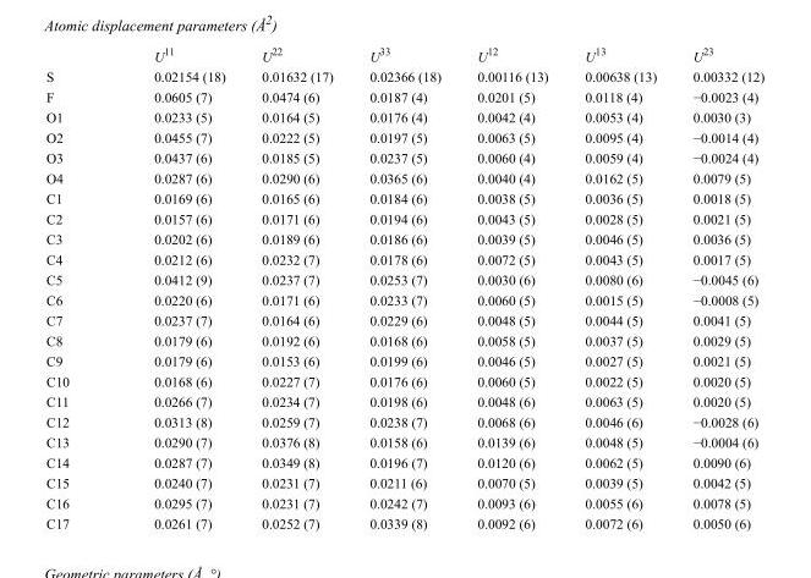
<table><thead><tr><td></td><td>U<sup>11</sup></td><td>U<sup>22</sup></td><td>U<sup>33</sup></td><td>U<sup>12</sup></td><td>U<sup>13</sup></td><td>U<sup>23</sup></td></tr></thead><tbody><tr><td>S</td><td>0.02154 (18)</td><td>0.01632 (17)</td><td>0.02366 (18)</td><td>0.00116 (13)</td><td>0.00638 (13)</td><td>0.00332 (12)</td></tr><tr><td>F</td><td>0.0605 (7)</td><td>0.0474 (6)</td><td>0.0187 (4)</td><td>0.0201 (5)</td><td>0.0118 (4)</td><td>−0.0023 (4)</td></tr><tr><td>O1</td><td>0.0233 (5)</td><td>0.0164 (5)</td><td>0.0176 (4)</td><td>0.0042 (4)</td><td>0.0053 (4)</td><td>0.0030 (3)</td></tr><tr><td>O2</td><td>0.0455 (7)</td><td>0.0222 (5)</td><td>0.0197 (5)</td><td>0.0063 (5)</td><td>0.0095 (4)</td><td>−0.0014 (4)</td></tr><tr><td>O3</td><td>0.0437 (6)</td><td>0.0185 (5)</td><td>0.0237 (5)</td><td>0.0060 (4)</td><td>0.0059 (4)</td><td>−0.0024 (4)</td></tr><tr><td>O4</td><td>0.0287 (6)</td><td>0.0290 (6)</td><td>0.0365 (6)</td><td>0.0040 (4)</td><td>0.0162 (5)</td><td>0.0079 (5)</td></tr><tr><td>C1</td><td>0.0169 (6)</td><td>0.0165 (6)</td><td>0.0184 (6)</td><td>0.0038 (5)</td><td>0.0036 (5)</td><td>0.0018 (5)</td></tr><tr><td>C2</td><td>0.0157 (6)</td><td>0.0171 (6)</td><td>0.0194 (6)</td><td>0.0043 (5)</td><td>0.0028 (5)</td><td>0.0021 (5)</td></tr><tr><td>C3</td><td>0.0202 (6)</td><td>0.0189 (6)</td><td>0.0186 (6)</td><td>0.0039 (5)</td><td>0.0046 (5)</td><td>0.0036 (5)</td></tr><tr><td>C4</td><td>0.0212 (6)</td><td>0.0232 (7)</td><td>0.0178 (6)</td><td>0.0072 (5)</td><td>0.0043 (5)</td><td>0.0017 (5)</td></tr><tr><td>C5</td><td>0.0412 (9)</td><td>0.0237 (7)</td><td>0.0253 (7)</td><td>0.0030 (6)</td><td>0.0080 (6)</td><td>−0.0045 (6)</td></tr><tr><td>C6</td><td>0.0220 (6)</td><td>0.0171 (6)</td><td>0.0233 (7)</td><td>0.0060 (5)</td><td>0.0015 (5)</td><td>−0.0008 (5)</td></tr><tr><td>C7</td><td>0.0237 (7)</td><td>0.0164 (6)</td><td>0.0229 (6)</td><td>0.0048 (5)</td><td>0.0044 (5)</td><td>0.0041 (5)</td></tr><tr><td>C8</td><td>0.0179 (6)</td><td>0.0192 (6)</td><td>0.0168 (6)</td><td>0.0058 (5)</td><td>0.0037 (5)</td><td>0.0029 (5)</td></tr><tr><td>C9</td><td>0.0179 (6)</td><td>0.0153 (6)</td><td>0.0199 (6)</td><td>0.0046 (5)</td><td>0.0027 (5)</td><td>0.0021 (5)</td></tr><tr><td>C10</td><td>0.0168 (6)</td><td>0.0227 (7)</td><td>0.0176 (6)</td><td>0.0060 (5)</td><td>0.0022 (5)</td><td>0.0020 (5)</td></tr><tr><td>C11</td><td>0.0266 (7)</td><td>0.0234 (7)</td><td>0.0198 (6)</td><td>0.0048 (6)</td><td>0.0063 (5)</td><td>0.0020 (5)</td></tr><tr><td>C12</td><td>0.0313 (8)</td><td>0.0259 (7)</td><td>0.0238 (7)</td><td>0.0068 (6)</td><td>0.0046 (6)</td><td>−0.0028 (6)</td></tr><tr><td>C13</td><td>0.0290 (7)</td><td>0.0376 (8)</td><td>0.0158 (6)</td><td>0.0139 (6)</td><td>0.0048 (5)</td><td>−0.0004 (6)</td></tr><tr><td>C14</td><td>0.0287 (7)</td><td>0.0349 (8)</td><td>0.0196 (7)</td><td>0.0120 (6)</td><td>0.0062 (5)</td><td>0.0090 (6)</td></tr><tr><td>C15</td><td>0.0240 (7)</td><td>0.0231 (7)</td><td>0.0211 (6)</td><td>0.0070 (5)</td><td>0.0039 (5)</td><td>0.0042 (5)</td></tr><tr><td>C16</td><td>0.0295 (7)</td><td>0.0231 (7)</td><td>0.0242 (7)</td><td>0.0093 (6)</td><td>0.0055 (6)</td><td>0.0078 (5)</td></tr><tr><td>C17</td><td>0.0261 (7)</td><td>0.0252 (7)</td><td>0.0339 (8)</td><td>0.0092 (6)</td><td>0.0072 (6)</td><td>0.0050 (6)</td></tr></tbody></table>